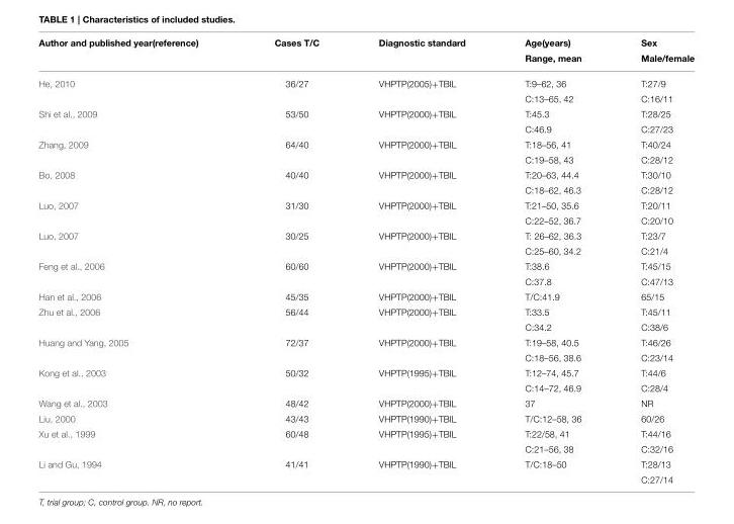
<table><thead><tr><td>Author and published year(reference)</td><td>Cases T/C</td><td>Diagnostic standard</td><td>Age(years) Range, mean</td><td>Sex Male/female</td></tr></thead><tbody><tr><td rowspan="2">He, 2010</td><td>36/27</td><td>VHPTP(2005)+TBIL</td><td>T:9–62, 36</td><td>T:27/9</td></tr><tr><td></td><td></td><td>C:13–65, 42</td><td>C:16/11</td></tr><tr><td rowspan="2">Shi et al., 2009</td><td>53/50</td><td>VHPTP(2000)+TBIL</td><td>T:45.3</td><td>T:28/25</td></tr><tr><td></td><td></td><td>C:46.9</td><td>C:27/23</td></tr><tr><td rowspan="2">Zhang, 2009</td><td>64/40</td><td>VHPTP(2000)+TBIL</td><td>T:18–56, 41</td><td>T:40/24</td></tr><tr><td></td><td></td><td>C:19–58, 43</td><td>C:28/12</td></tr><tr><td rowspan="2">Bo, 2008</td><td>40/40</td><td>VHPTP(2000)+TBIL</td><td>T:20–63, 44.4</td><td>T:30/10</td></tr><tr><td></td><td></td><td>C:18–62, 46.3</td><td>C:28/12</td></tr><tr><td rowspan="2">Luo, 2007</td><td>31/30</td><td>VHPTP(2000)+TBIL</td><td>T:21–50, 35.6</td><td>T:20/11</td></tr><tr><td></td><td></td><td>C:22–52, 36.7</td><td>C:20/10</td></tr><tr><td rowspan="2">Luo, 2007</td><td>30/25</td><td>VHPTP(2000)+TBIL</td><td>T: 26–62, 36.3</td><td>T:23/7</td></tr><tr><td></td><td></td><td>C:25–60, 34.2</td><td>C:21/4</td></tr><tr><td rowspan="2">Feng et al., 2006</td><td>60/60</td><td>VHPTP(2000)+TBIL</td><td>T:38.6</td><td>T:45/15</td></tr><tr><td></td><td></td><td>C:37.8</td><td>C:47/13</td></tr><tr><td>Han et al., 2006</td><td>45/35</td><td>VHPTP(2000)+TBIL</td><td>T/C:41.9</td><td>65/15</td></tr><tr><td rowspan="2">Zhu et al., 2006</td><td>56/44</td><td>VHPTP(2000)+TBIL</td><td>T:33.5</td><td>T:45/11</td></tr><tr><td></td><td></td><td>C:34.2</td><td>C:38/6</td></tr><tr><td rowspan="2">Huang and Yang, 2005</td><td>72/37</td><td>VHPTP(2000)+TBIL</td><td>T:19–58, 40.5</td><td>T:46/26</td></tr><tr><td></td><td></td><td>C:18–56, 38.6</td><td>C:23/14</td></tr><tr><td rowspan="2">Kong et al., 2003</td><td>50/32</td><td>VHPTP(1995)+TBIL</td><td>T:12–74, 45.7</td><td>T:44/6</td></tr><tr><td></td><td></td><td>C:14–72, 46.9</td><td>C:28/4</td></tr><tr><td>Wang et al., 2003</td><td>48/42</td><td>VHPTP(2000)+TBIL</td><td>37</td><td>NR</td></tr><tr><td>Liu, 2000</td><td>43/43</td><td>VHPTP(1990)+TBIL</td><td>T/C:12–58, 36</td><td>60/26</td></tr><tr><td rowspan="2">Xu et al., 1999</td><td>60/48</td><td>VHPTP(1995)+TBIL</td><td>T:22/58, 41</td><td>T:44/16</td></tr><tr><td></td><td></td><td>C:21–56, 38</td><td>C:32/16</td></tr><tr><td rowspan="2">Li and Gu, 1994</td><td>41/41</td><td>VHPTP(1990)+TBIL</td><td>T/C:18–50</td><td>T:28/13</td></tr><tr><td></td><td></td><td></td><td>C:27/14</td></tr></tbody></table>